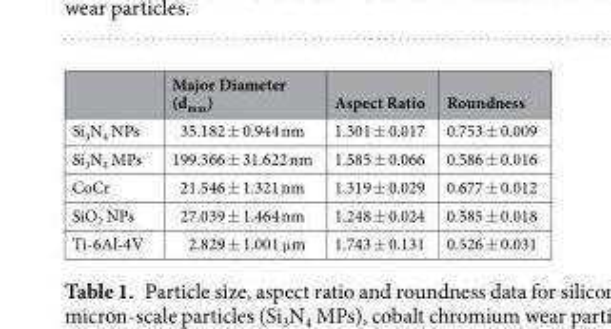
<table><thead><tr><td></td><td>Major Diameter (d<sub>max</sub>)</td><td>Aspect Ratio</td><td>Roundness</td></tr></thead><tbody><tr><td>Si<sub>3</sub>N<sub>4</sub> NPs</td><td>35.182 ± 0.944 nm</td><td>1.301 ± 0.017</td><td>0.753 ± 0.009</td></tr><tr><td>Si<sub>3</sub>N<sub>4</sub> MPs</td><td>199.366 ± 31.622 nm</td><td>1.585 ± 0.066</td><td>0.586 ± 0.016</td></tr><tr><td>CoCr</td><td>21.546 ± 1.321 nm</td><td>1.319 ± 0.029</td><td>0.677 ± 0.012</td></tr><tr><td>SiO<sub>2</sub> NPs</td><td>27.039 ± 1.464 nm</td><td>1.248 ± 0.024</td><td>0.585 ± 0.018</td></tr><tr><td>Ti-6Al-4V</td><td>2.829 ± 1.001 μm</td><td>1.743 ± 0.131</td><td>0.526 ± 0.031</td></tr></tbody></table>